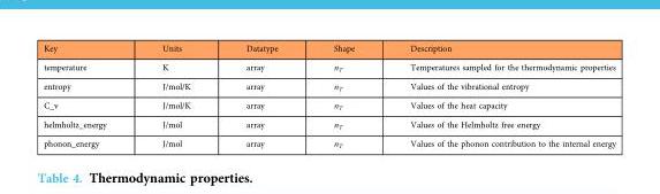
<table><thead><tr><td>Key</td><td>Units</td><td>Datatype</td><td>Shape</td><td>Description</td></tr></thead><tbody><tr><td>temperature</td><td>K</td><td>array</td><td>n<sub>T</sub></td><td>Temperatures sampled for the thermodynamic properties</td></tr><tr><td>entropy</td><td>J/mol/K</td><td>array</td><td>n<sub>T</sub></td><td>Values of the vibrational entropy</td></tr><tr><td>C_v</td><td>J/mol/K</td><td>array</td><td>n<sub>T</sub></td><td>Values of the heat capacity</td></tr><tr><td>helmholtz_energy</td><td>J/mol</td><td>array</td><td>n<sub>T</sub></td><td>Values of the Helmholtz free energy</td></tr><tr><td>phonon_energy</td><td>J/mol</td><td>array</td><td>n<sub>T</sub></td><td>Values of the phonon contribution to the internal energy</td></tr></tbody></table>